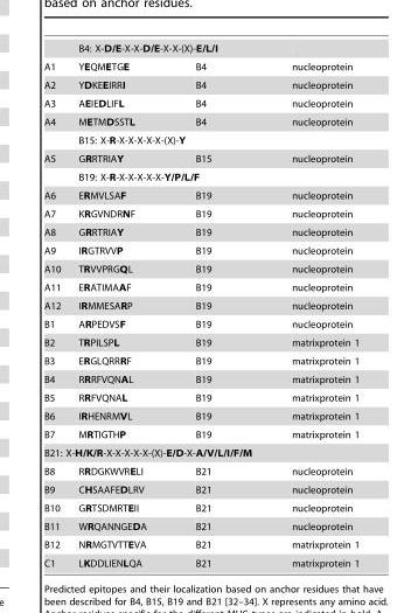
<table><thead><tr><td rowspan="2">A1</td><td colspan="2">B4: X-D/E-X-X-D/E-X-X-(X)-E/L/I</td><td rowspan="2">nucleoprotein</td></tr><tr><td>YEQMETGE</td><td>B4</td></tr></thead><tbody><tr><td>A2</td><td>YDKEEIRRI</td><td>B4</td><td>nucleoprotein</td></tr><tr><td>A3</td><td>AEIEDLIFL</td><td>B4</td><td>nucleoprotein</td></tr><tr><td rowspan="2">A4</td><td>METMDSSTL</td><td>B4</td><td>nucleoprotein</td></tr><tr><td colspan="2">B15: X-R-X-X-X-X-X-(X)-Y</td><td></td></tr><tr><td rowspan="2">A5</td><td>GRRTRIAY</td><td>B15</td><td>nucleoprotein</td></tr><tr><td colspan="2">B19: X-R-X-X-X-X-X-Y/P/L/F</td><td></td></tr><tr><td>A6</td><td>ERMVLSAF</td><td>B19</td><td>nucleoprotein</td></tr><tr><td>A7</td><td>KRGVNDRNF</td><td>B19</td><td>nucleoprotein</td></tr><tr><td>A8</td><td>GRRTRIAY</td><td>B19</td><td>nucleoprotein</td></tr><tr><td>A9</td><td>IRGTRVVP</td><td>B19</td><td>nucleoprotein</td></tr><tr><td>A10</td><td>TRVVPRGQL</td><td>B19</td><td>nucleoprotein</td></tr><tr><td>A11</td><td>ERATIMAAF</td><td>B19</td><td>nucleoprotein</td></tr><tr><td>A12</td><td>IRMMESARP</td><td>B19</td><td>nucleoprotein</td></tr><tr><td>B1</td><td>ARPEDVSF</td><td>B19</td><td>nucleoprotein</td></tr><tr><td>B2</td><td>TRPILSPL</td><td>B19</td><td>matrixprotein 1</td></tr><tr><td>B3</td><td>ERGLQRRRF</td><td>B19</td><td>matrixprotein 1</td></tr><tr><td>B4</td><td>RRRFVQNAL</td><td>B19</td><td>matrixprotein 1</td></tr><tr><td>B5</td><td>RRFVQNAL</td><td>B19</td><td>matrixprotein 1</td></tr><tr><td>B6</td><td>IRHENRMVL</td><td>B19</td><td>matrixprotein 1</td></tr><tr><td>B7</td><td>MRTIGTHP</td><td>B19</td><td>matrixprotein 1</td></tr><tr><td colspan="4">B21: X-H/K/R-X-X-X-X-X-(X)-E/D-X-A/V/L/I/F/M</td></tr><tr><td>B8</td><td>RRDGKWVRELI</td><td>B21</td><td>nucleoprotein</td></tr><tr><td>B9</td><td>CHSAAFEDLRV</td><td>B21</td><td>nucleoprotein</td></tr><tr><td>B10</td><td>GRTSDMRTEII</td><td>B21</td><td>nucleoprotein</td></tr><tr><td>B11</td><td>WRQANNGEDA</td><td>B21</td><td>nucleoprotein</td></tr><tr><td>B12</td><td>NRMGTVTTEVA</td><td>B21</td><td>matrixprotein 1</td></tr><tr><td>C1</td><td>LKDDLIENLQA</td><td>B21</td><td>matrixprotein 1</td></tr></tbody></table>